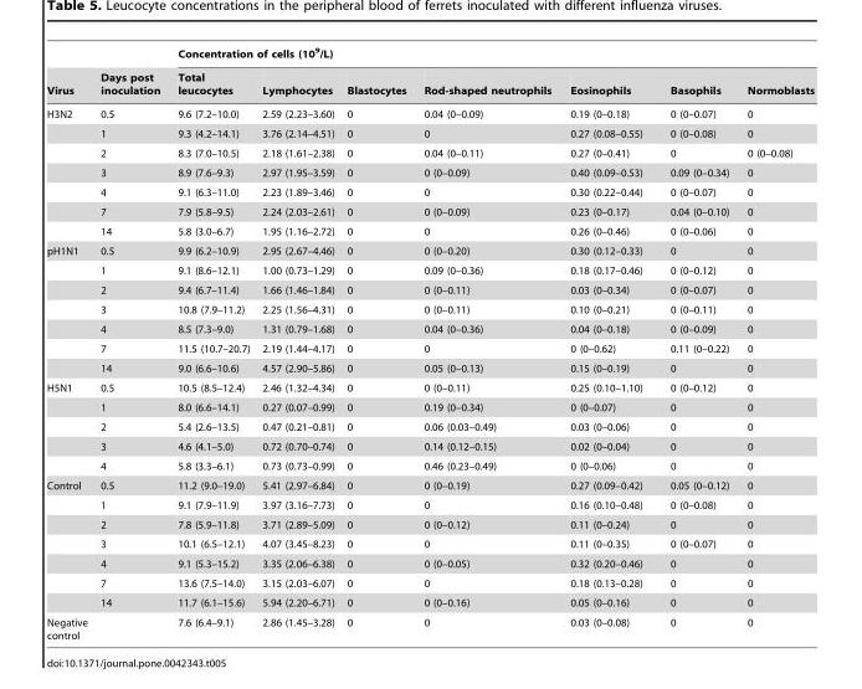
<table><thead><tr><td rowspan="2">Virus</td><td rowspan="2">Days post inoculation</td><td colspan="7">Concentration of cells (10<sup>9</sup>/L)</td></tr><tr><td>Total leucocytes</td><td>Lymphocytes</td><td>Blastocytes</td><td>Rod-shaped neutrophils</td><td>Eosinophils</td><td>Basophils</td><td>Normoblasts</td></tr></thead><tbody><tr><td rowspan="7">H3N2</td><td>0.5</td><td>9.6 (7.2–10.0)</td><td>2.59 (2.23–3.60)</td><td>0</td><td>0.04 (0–0.09)</td><td>0.19 (0–0.18)</td><td>0 (0–0.07)</td><td>0</td></tr><tr><td>1</td><td>9.3 (4.2–14.1)</td><td>3.76 (2.14–4.51)</td><td>0</td><td>0</td><td>0.27 (0.08–0.55)</td><td>0 (0–0.08)</td><td>0</td></tr><tr><td>2</td><td>8.3 (7.0–10.5)</td><td>2.18 (1.61–2.38)</td><td>0</td><td>0.04 (0–0.11)</td><td>0.27 (0–0.41)</td><td>0</td><td>0 (0–0.08)</td></tr><tr><td>3</td><td>8.9 (7.6–9.3)</td><td>2.97 (1.95–3.59)</td><td>0</td><td>0 (0–0.09)</td><td>0.40 (0.09–0.53)</td><td>0.09 (0–0.34)</td><td>0</td></tr><tr><td>4</td><td>9.1 (6.3–11.0)</td><td>2.23 (1.89–3.46)</td><td>0</td><td>0</td><td>0.30 (0.22–0.44)</td><td>0 (0–0.07)</td><td>0</td></tr><tr><td>7</td><td>7.9 (5.8–9.5)</td><td>2.24 (2.03–2.61)</td><td>0</td><td>0 (0–0.09)</td><td>0.23 (0–0.17)</td><td>0.04 (0–0.10)</td><td>0</td></tr><tr><td>14</td><td>5.8 (3.0–6.7)</td><td>1.95 (1.16–2.72)</td><td>0</td><td>0</td><td>0.26 (0–0.46)</td><td>0 (0–0.06)</td><td>0</td></tr><tr><td rowspan="7">pH1N1</td><td>0.5</td><td>9.9 (6.2–10.9)</td><td>2.95 (2.67–4.46)</td><td>0</td><td>0 (0–0.20)</td><td>0.30 (0.12–0.33)</td><td>0</td><td>0</td></tr><tr><td>1</td><td>9.1 (8.6–12.1)</td><td>1.00 (0.73–1.29)</td><td>0</td><td>0.09 (0–0.36)</td><td>0.18 (0.17–0.46)</td><td>0 (0–0.12)</td><td>0</td></tr><tr><td>2</td><td>9.4 (6.7–11.4)</td><td>1.66 (1.46–1.84)</td><td>0</td><td>0 (0–0.11)</td><td>0.03 (0–0.34)</td><td>0 (0–0.07)</td><td>0</td></tr><tr><td>3</td><td>10.8 (7.9–11.2)</td><td>2.25 (1.56–4.31)</td><td>0</td><td>0 (0–0.11)</td><td>0.10 (0–0.21)</td><td>0 (0–0.11)</td><td>0</td></tr><tr><td>4</td><td>8.5 (7.3–9.0)</td><td>1.31 (0.79–1.68)</td><td>0</td><td>0.04 (0–0.36)</td><td>0.04 (0–0.18)</td><td>0 (0–0.09)</td><td>0</td></tr><tr><td>7</td><td>11.5 (10.7–20.7)</td><td>2.19 (1.44–4.17)</td><td>0</td><td>0</td><td>0 (0–0.62)</td><td>0.11 (0–0.22)</td><td>0</td></tr><tr><td>14</td><td>9.0 (6.6–10.6)</td><td>4.57 (2.90–5.86)</td><td>0</td><td>0.05 (0–0.13)</td><td>0.15 (0–0.19)</td><td>0</td><td>0</td></tr><tr><td rowspan="5">H5N1</td><td>0.5</td><td>10.5 (8.5–12.4)</td><td>2.46 (1.32–4.34)</td><td>0</td><td>0 (0–0.11)</td><td>0.25 (0.10–1.10)</td><td>0 (0–0.12)</td><td>0</td></tr><tr><td>1</td><td>8.0 (6.6–14.1)</td><td>0.27 (0.07–0.99)</td><td>0</td><td>0.19 (0–0.34)</td><td>0 (0–0.07)</td><td>0</td><td>0</td></tr><tr><td>2</td><td>5.4 (2.6–13.5)</td><td>0.47 (0.21–0.81)</td><td>0</td><td>0.06 (0.03–0.49)</td><td>0.03 (0–0.06)</td><td>0</td><td>0</td></tr><tr><td>3</td><td>4.6 (4.1–5.0)</td><td>0.72 (0.70–0.74)</td><td>0</td><td>0.14 (0.12–0.15)</td><td>0.02 (0–0.04)</td><td>0</td><td>0</td></tr><tr><td>4</td><td>5.8 (3.3–6.1)</td><td>0.73 (0.73–0.99)</td><td>0</td><td>0.46 (0.23–0.49)</td><td>0 (0–0.06)</td><td>0</td><td>0</td></tr><tr><td rowspan="7">Control</td><td>0.5</td><td>11.2 (9.0–19.0)</td><td>5.41 (2.97–6.84)</td><td>0</td><td>0 (0–0.19)</td><td>0.27 (0.09–0.42)</td><td>0.05 (0–0.12)</td><td>0</td></tr><tr><td>1</td><td>9.1 (7.9–11.9)</td><td>3.97 (3.16–7.73)</td><td>0</td><td>0</td><td>0.16 (0.10–0.48)</td><td>0 (0–0.08)</td><td>0</td></tr><tr><td>2</td><td>7.8 (5.9–11.8)</td><td>3.71 (2.89–5.09)</td><td>0</td><td>0 (0–0.12)</td><td>0.11 (0–0.24)</td><td>0</td><td>0</td></tr><tr><td>3</td><td>10.1 (6.5–12.1)</td><td>4.07 (3.45–8.23)</td><td>0</td><td>0</td><td>0.11 (0–0.35)</td><td>0 (0–0.07)</td><td>0</td></tr><tr><td>4</td><td>9.1 (5.3–15.2)</td><td>3.35 (2.06–6.38)</td><td>0</td><td>0 (0–0.05)</td><td>0.32 (0.20–0.46)</td><td>0</td><td>0</td></tr><tr><td>7</td><td>13.6 (7.5–14.0)</td><td>3.15 (2.03–6.07)</td><td>0</td><td>0</td><td>0.18 (0.13–0.28)</td><td>0</td><td>0</td></tr><tr><td>14</td><td>11.7 (6.1–15.6)</td><td>5.94 (2.20–6.71)</td><td>0</td><td>0 (0–0.16)</td><td>0.05 (0–0.16)</td><td>0</td><td>0</td></tr><tr><td>Negative control</td><td></td><td>7.6 (6.4–9.1)</td><td>2.86 (1.45–3.28)</td><td>0</td><td>0</td><td>0.03 (0–0.08)</td><td>0</td><td>0</td></tr></tbody></table>